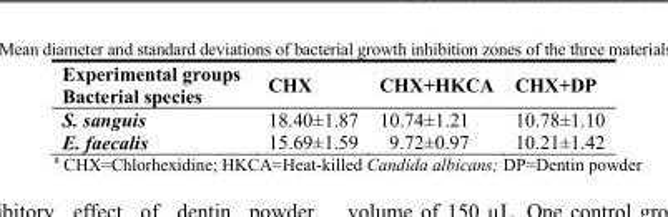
<table><thead><tr><td rowspan="2">Experimental groups Bacterial species</td><td rowspan="2">CHX</td><td rowspan="2">CHX+HKCA</td><td rowspan="2">CHX+DP</td></tr><tr></tr></thead><tbody><tr><td>S. sanguis</td><td>18.40±1.87</td><td>10.74±1.21</td><td>10.78±1.10</td></tr><tr><td>E. faecalis</td><td>15.69±1.59</td><td>9.72±0.97</td><td>10.21±1.42</td></tr></tbody></table>